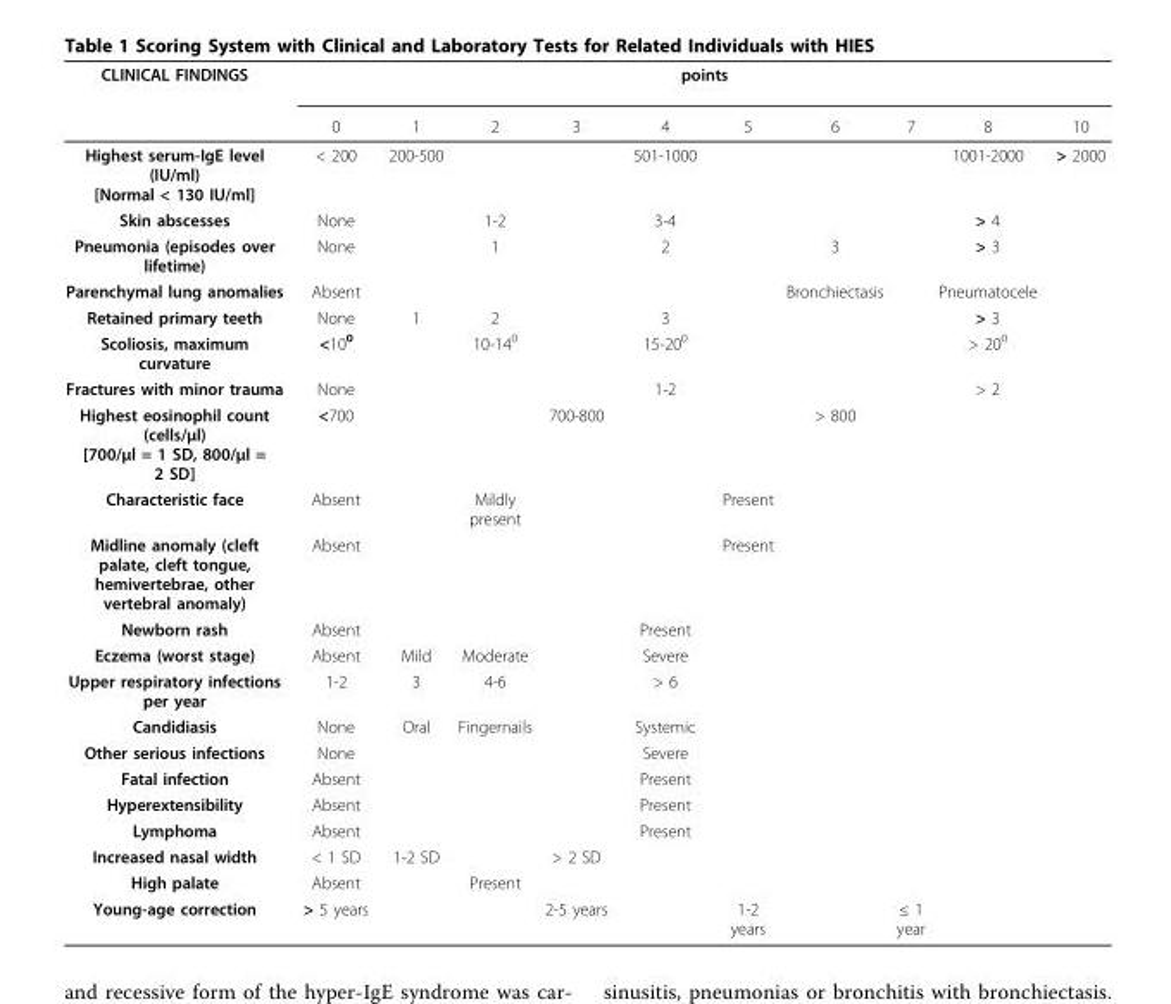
<table><thead><tr><td rowspan="2">CLINICAL FINDINGS</td><td colspan="10">points</td></tr><tr><td>0</td><td>1</td><td>2</td><td>3</td><td>4</td><td>5</td><td>6</td><td>7</td><td>8</td><td>10</td></tr></thead><tbody><tr><td>Highest serum-IgE level (IU/ml) [Normal &lt; 130 IU/ml]</td><td>&lt; 200</td><td>200-500</td><td></td><td></td><td>501-1000</td><td></td><td></td><td></td><td>1001-2000</td><td>&gt; 2000</td></tr><tr><td>Skin abscesses</td><td>None</td><td></td><td>1-2</td><td></td><td>3-4</td><td></td><td></td><td></td><td>&gt; 4</td><td></td></tr><tr><td>Pneumonia (episodes over lifetime)</td><td>None</td><td></td><td>1</td><td></td><td>2</td><td></td><td>3</td><td></td><td>&gt; 3</td><td></td></tr><tr><td>Parenchymal lung anomalies</td><td>Absent</td><td></td><td></td><td></td><td></td><td></td><td>Bronchiectasis</td><td></td><td>Pneumatocele</td><td></td></tr><tr><td>Retained primary teeth</td><td>None</td><td>1</td><td>2</td><td></td><td>3</td><td></td><td></td><td></td><td>&gt; 3</td><td></td></tr><tr><td>Scoliosis, maximum curvature</td><td>&lt;10<sup>0</sup></td><td></td><td>10-14<sup>0</sup></td><td></td><td>15-20<sup>0</sup></td><td></td><td></td><td></td><td>&gt; 20<sup>0</sup></td><td></td></tr><tr><td>Fractures with minor trauma</td><td>None</td><td></td><td></td><td></td><td>1-2</td><td></td><td></td><td></td><td>&gt; 2</td><td></td></tr><tr><td>Highest eosinophil count (cells/μl) [700/μl = 1 SD, 800/μl = 2 SD]</td><td>&lt;700</td><td></td><td></td><td>700-800</td><td></td><td></td><td>&gt; 800</td><td></td><td></td><td></td></tr><tr><td>Characteristic face</td><td>Absent</td><td></td><td>Mildly present</td><td></td><td></td><td>Present</td><td></td><td></td><td></td><td></td></tr><tr><td>Midline anomaly (cleft palate, cleft tongue, hemivertebrae, other vertebral anomaly)</td><td>Absent</td><td></td><td></td><td></td><td></td><td>Present</td><td></td><td></td><td></td><td></td></tr><tr><td>Newborn rash</td><td>Absent</td><td></td><td></td><td></td><td>Present</td><td></td><td></td><td></td><td></td><td></td></tr><tr><td>Eczema (worst stage)</td><td>Absent</td><td>Mild</td><td>Moderate</td><td></td><td>Severe</td><td></td><td></td><td></td><td></td><td></td></tr><tr><td>Upper respiratory infections per year</td><td>1-2</td><td>3</td><td>4-6</td><td></td><td>&gt; 6</td><td></td><td></td><td></td><td></td><td></td></tr><tr><td>Candidiasis</td><td>None</td><td>Oral</td><td>Fingernails</td><td></td><td>Systemic</td><td></td><td></td><td></td><td></td><td></td></tr><tr><td>Other serious infections</td><td>None</td><td></td><td></td><td></td><td>Severe</td><td></td><td></td><td></td><td></td><td></td></tr><tr><td>Fatal infection</td><td>Absent</td><td></td><td></td><td></td><td>Present</td><td></td><td></td><td></td><td></td><td></td></tr><tr><td>Hyperextensibility</td><td>Absent</td><td></td><td></td><td></td><td>Present</td><td></td><td></td><td></td><td></td><td></td></tr><tr><td>Lymphoma</td><td>Absent</td><td></td><td></td><td></td><td>Present</td><td></td><td></td><td></td><td></td><td></td></tr><tr><td>Increased nasal width</td><td>&lt; 1 SD</td><td>1-2 SD</td><td></td><td>&gt; 2 SD</td><td></td><td></td><td></td><td></td><td></td><td></td></tr><tr><td>High palate</td><td>Absent</td><td></td><td>Present</td><td></td><td></td><td></td><td></td><td></td><td></td><td></td></tr><tr><td>Young-age correction</td><td>&gt; 5 years</td><td></td><td></td><td>2-5 years</td><td></td><td>1-2 years</td><td></td><td>≤ 1 year</td><td></td><td></td></tr></tbody></table>